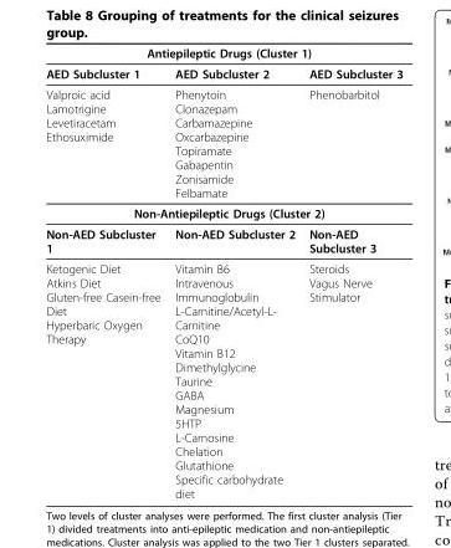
<table><thead><tr><td colspan="3">Antiepileptic Drugs (Cluster 1)</td></tr><tr><td>AED Subcluster 1</td><td>AED Subcluster 2</td><td>AED Subcluster 3</td></tr></thead><tbody><tr><td>Valproic acid Lamotrigine Levetiracetam Ethosuximide</td><td>Phenytoin Clonazepam Carbamazepine Oxcarbazepine Topiramate Gabapentin Zonisamide Felbamate</td><td>Phenobarbitol</td></tr><tr><td colspan="3">Non-Antiepileptic Drugs (Cluster 2)</td></tr><tr><td>Non-AED Subcluster 1</td><td>Non-AED Subcluster 2</td><td>Non-AED Subcluster 3</td></tr><tr><td>Ketogenic Diet Atkins Diet Gluten-free Casein-free Diet Hyperbaric Oxygen Therapy</td><td>Vitamin B6 Intravenous Immunoglobulin L-Carnitine/Acetyl-L- Carnitine CoQ10 Vitamin B12 Dimethylglycine Taurine GABA Magnesium 5HTP L-Carnosine Chelation Glutathione Specific carbohydrate diet</td><td>Steroids Vagus Nerve Stimulator</td></tr></tbody></table>